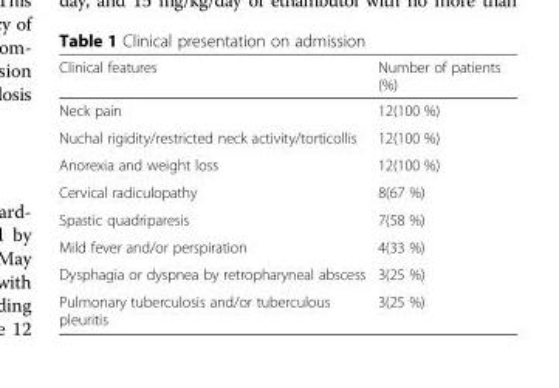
<table><thead><tr><td>Clinical features</td><td>Number of patients (%)</td></tr></thead><tbody><tr><td>Neck pain</td><td>12(100 %)</td></tr><tr><td>Nuchal rigidity/restricted neck activity/torticollis</td><td>12(100 %)</td></tr><tr><td>Anorexia and weight loss</td><td>12(100 %)</td></tr><tr><td>Cervical radiculopathy</td><td>8(67 %)</td></tr><tr><td>Spastic quadriparesis</td><td>7(58 %)</td></tr><tr><td>Mild fever and/or perspiration</td><td>4(33 %)</td></tr><tr><td>Dysphagia or dyspnea by retropharyneal abscess</td><td>3(25 %)</td></tr><tr><td>Pulmonary tuberculosis and/or tuberculous pleuritis</td><td>3(25 %)</td></tr></tbody></table>